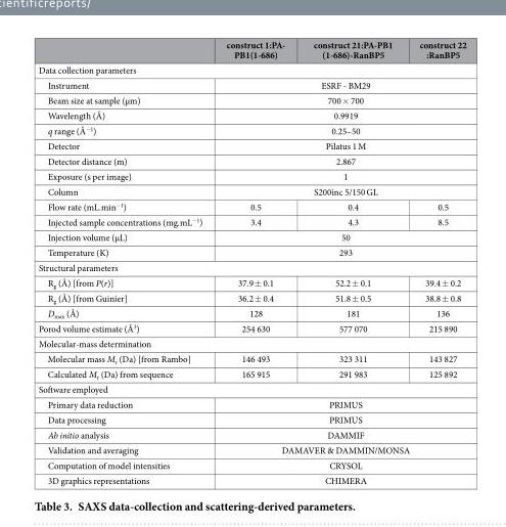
<table><thead><tr><td></td><td>construct 1:PA- PB1(1-686)</td><td>construct 21:PA-PB1 (1-686)-RanBP5</td><td>construct 22 :RanBP5</td></tr></thead><tbody><tr><td colspan="4">Data collection parameters</td></tr><tr><td>Instrument</td><td colspan="3">ESRF - BM29</td></tr><tr><td>Beam size at sample (μm)</td><td colspan="3">700 × 700</td></tr><tr><td>Wavelength (Å)</td><td colspan="3">0.9919</td></tr><tr><td>q range (Å<sup>−1</sup>)</td><td colspan="3">0.25–50</td></tr><tr><td>Detector</td><td colspan="3">Pilatus 1 M</td></tr><tr><td>Detector distance (m)</td><td colspan="3">2.867</td></tr><tr><td>Exposure (s per image)</td><td colspan="3">1</td></tr><tr><td>Column</td><td colspan="3">S200inc 5/150 GL</td></tr><tr><td>Flow rate (mL.min<sup>−1</sup>)</td><td>0.5</td><td>0.4</td><td>0.5</td></tr><tr><td>Injected sample concentrations (mg.mL<sup>−1</sup>)</td><td>3.4</td><td>4.3</td><td>8.5</td></tr><tr><td>Injection volume (μL)</td><td colspan="3">50</td></tr><tr><td>Temperature (K)</td><td colspan="3">293</td></tr><tr><td colspan="4">Structural parameters</td></tr><tr><td>R<sub>g</sub> (Å) [from P(r)]</td><td>37.9 ± 0.1</td><td>52.2 ± 0.1</td><td>39.4 ± 0.2</td></tr><tr><td>R<sub>g</sub> (Å) [from Guinier]</td><td>36.2 ± 0.4</td><td>51.8 ± 0.5</td><td>38.8 ± 0.8</td></tr><tr><td>D<sub>max</sub> (Å)</td><td>128</td><td>181</td><td>136</td></tr><tr><td>Porod volume estimate (Å<sup>3</sup>)</td><td>254 630</td><td>577 070</td><td>215 890</td></tr><tr><td colspan="4">Molecular-mass determination</td></tr><tr><td>Molecular mass M<sub>r</sub> (Da) [from Rambo]</td><td>146 493</td><td>323 311</td><td>143 827</td></tr><tr><td>Calculated M<sub>r</sub> (Da) from sequence</td><td>165 915</td><td>291 983</td><td>125 892</td></tr><tr><td colspan="4">Software employed</td></tr><tr><td>Primary data reduction</td><td colspan="3">PRIMUS</td></tr><tr><td>Data processing</td><td colspan="3">PRIMUS</td></tr><tr><td>Ab initio analysis</td><td colspan="3">DAMMIF</td></tr><tr><td>Validation and averaging</td><td colspan="3">DAMAVER &amp; DAMMIN/MONSA</td></tr><tr><td>Computation of model intensities</td><td colspan="3">CRYSOL</td></tr><tr><td>3D graphics representations</td><td colspan="3">CHIMERA</td></tr></tbody></table>